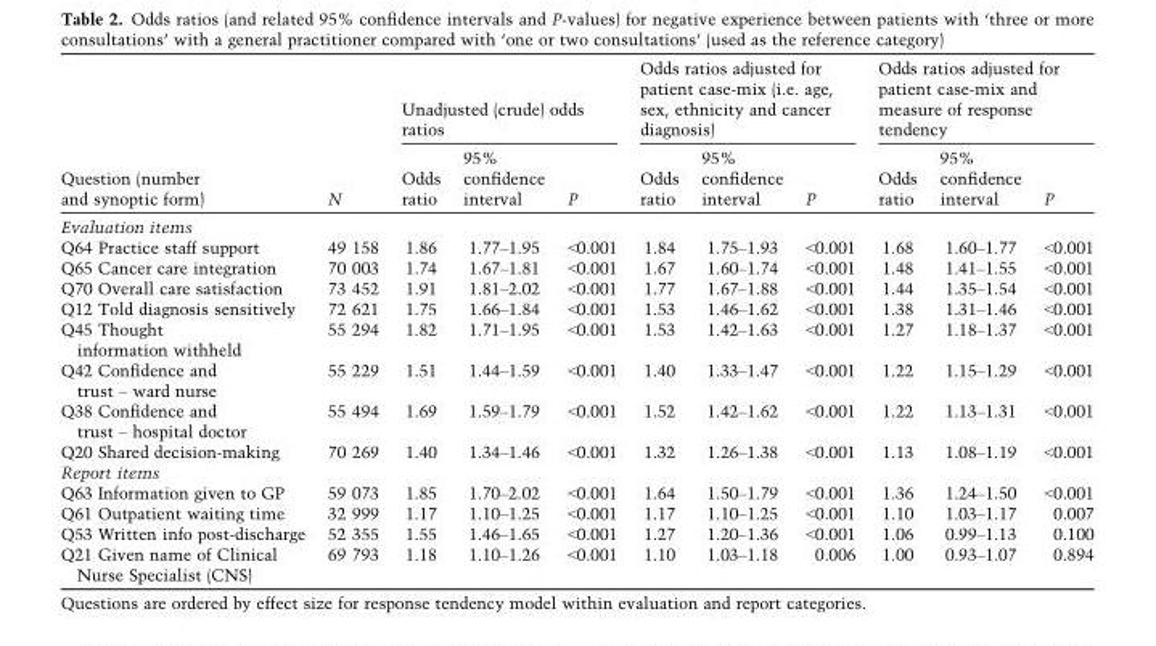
<table><thead><tr><td rowspan="2">Question (number and synoptic form)</td><td rowspan="2">N</td><td colspan="3">Unadjusted (crude) odds ratios</td><td colspan="3">Odds ratios adjusted for patient case-mix (i.e. age, sex, ethnicity and cancer diagnosis)</td><td colspan="3">Odds ratios adjusted for patient case-mix and measure of response tendency</td></tr><tr><td>Odds ratio</td><td>95% confidence interval</td><td>P</td><td>Odds ratio</td><td>95% confidence interval</td><td>P</td><td>Odds ratio</td><td>95% confidence interval</td><td>P</td></tr></thead><tbody><tr><td colspan="11">Evaluation items</td></tr><tr><td>Q64 Practice staff support</td><td>49 158</td><td>1.86</td><td>1.77–1.95</td><td>&lt;0.001</td><td>1.84</td><td>1.75–1.93</td><td>&lt;0.001</td><td>1.68</td><td>1.60–1.77</td><td>&lt;0.001</td></tr><tr><td>Q65 Cancer care integration</td><td>70 003</td><td>1.74</td><td>1.67–1.81</td><td>&lt;0.001</td><td>1.67</td><td>1.60–1.74</td><td>&lt;0.001</td><td>1.48</td><td>1.41–1.55</td><td>&lt;0.001</td></tr><tr><td>Q70 Overall care satisfaction</td><td>73 452</td><td>1.91</td><td>1.81–2.02</td><td>&lt;0.001</td><td>1.77</td><td>1.67–1.88</td><td>&lt;0.001</td><td>1.44</td><td>1.35–1.54</td><td>&lt;0.001</td></tr><tr><td>Q12 Told diagnosis sensitively</td><td>72 621</td><td>1.75</td><td>1.66–1.84</td><td>&lt;0.001</td><td>1.53</td><td>1.46–1.62</td><td>&lt;0.001</td><td>1.38</td><td>1.31–1.46</td><td>&lt;0.001</td></tr><tr><td>Q45 Thought information withheld</td><td>55 294</td><td>1.82</td><td>1.71–1.95</td><td>&lt;0.001</td><td>1.53</td><td>1.42–1.63</td><td>&lt;0.001</td><td>1.27</td><td>1.18–1.37</td><td>&lt;0.001</td></tr><tr><td>Q42 Confidence and trust – ward nurse</td><td>55 229</td><td>1.51</td><td>1.44–1.59</td><td>&lt;0.001</td><td>1.40</td><td>1.33–1.47</td><td>&lt;0.001</td><td>1.22</td><td>1.15–1.29</td><td>&lt;0.001</td></tr><tr><td>Q38 Confidence and trust – hospital doctor</td><td>55 494</td><td>1.69</td><td>1.59–1.79</td><td>&lt;0.001</td><td>1.52</td><td>1.42–1.62</td><td>&lt;0.001</td><td>1.22</td><td>1.13–1.31</td><td>&lt;0.001</td></tr><tr><td>Q20 Shared decision-making</td><td>70 269</td><td>1.40</td><td>1.34–1.46</td><td>&lt;0.001</td><td>1.32</td><td>1.26–1.38</td><td>&lt;0.001</td><td>1.13</td><td>1.08–1.19</td><td>&lt;0.001</td></tr><tr><td colspan="11">Report items</td></tr><tr><td>Q63 Information given to GP</td><td>59 073</td><td>1.85</td><td>1.70–2.02</td><td>&lt;0.001</td><td>1.64</td><td>1.50–1.79</td><td>&lt;0.001</td><td>1.36</td><td>1.24–1.50</td><td>&lt;0.001</td></tr><tr><td>Q61 Outpatient waiting time</td><td>32 999</td><td>1.17</td><td>1.10–1.25</td><td>&lt;0.001</td><td>1.17</td><td>1.10–1.25</td><td>&lt;0.001</td><td>1.10</td><td>1.03–1.17</td><td>0.007</td></tr><tr><td>Q53 Written info post-discharge</td><td>52 355</td><td>1.55</td><td>1.46–1.65</td><td>&lt;0.001</td><td>1.27</td><td>1.20–1.36</td><td>&lt;0.001</td><td>1.06</td><td>0.99–1.13</td><td>0.100</td></tr><tr><td>Q21 Given name of Clinical Nurse Specialist (CNS)</td><td>69 793</td><td>1.18</td><td>1.10–1.26</td><td>&lt;0.001</td><td>1.10</td><td>1.03–1.18</td><td>0.006</td><td>1.00</td><td>0.93–1.07</td><td>0.894</td></tr></tbody></table>